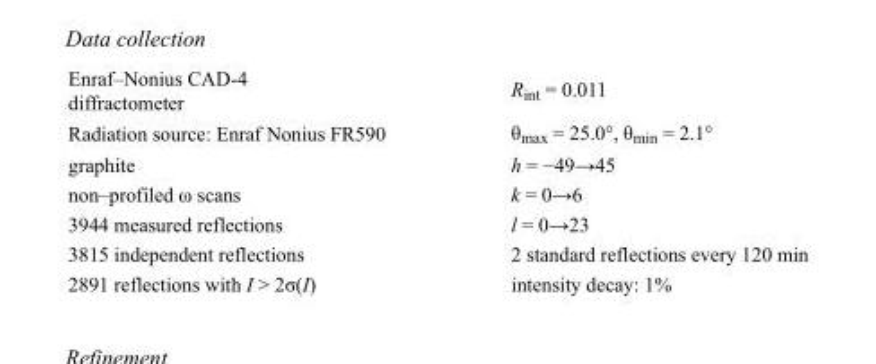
<table><tbody><tr><td>Enraf–Nonius CAD-4 diffractometer</td><td>R<sub>int</sub> = 0.011</td></tr><tr><td>Radiation source: Enraf Nonius FR590</td><td>θ<sub>max</sub> = 25.0°, θ<sub>min</sub> = 2.1°</td></tr><tr><td>graphite</td><td>h = −49→45</td></tr><tr><td>non–profiled ω scans</td><td>k = 0→6</td></tr><tr><td>3944 measured reflections</td><td>l = 0→23</td></tr><tr><td>3815 independent reflections</td><td>2 standard reflections every 120 min</td></tr><tr><td>2891 reflections with I &gt; 2σ(I)</td><td>intensity decay: 1%</td></tr></tbody></table>